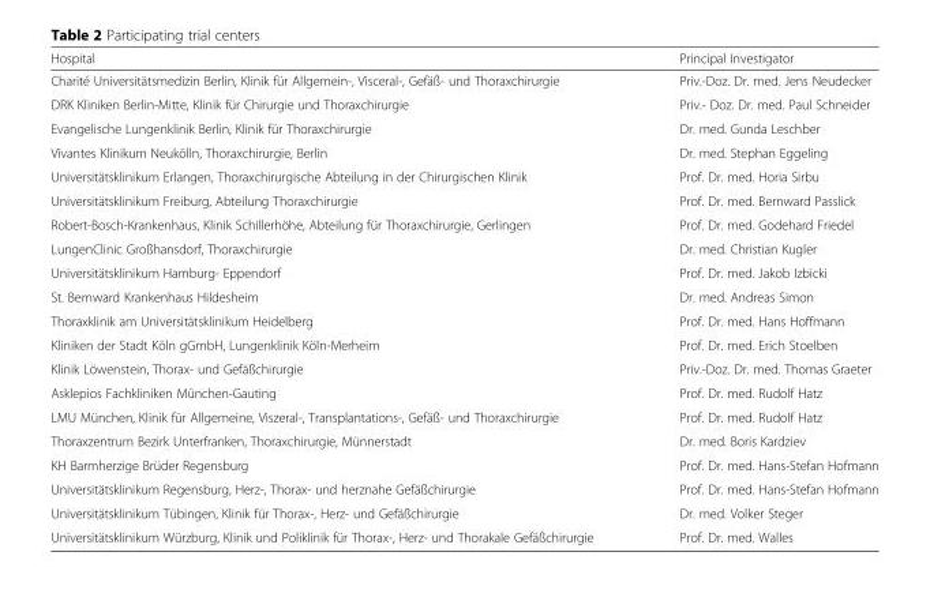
<table><thead><tr><td>Hospital</td><td>Principal Investigator</td></tr></thead><tbody><tr><td>Charité Universitätsmedizin Berlin, Klinik für Allgemein-, Visceral-, Gefäß- und Thoraxchirurgie</td><td>Priv.-Doz. Dr. med. Jens Neudecker</td></tr><tr><td>DRK Kliniken Berlin-Mitte, Klinik für Chirurgie und Thoraxchirurgie</td><td>Priv.- Doz. Dr. med. Paul Schneider</td></tr><tr><td>Evangelische Lungenklinik Berlin, Klinik für Thoraxchirurgie</td><td>Dr. med. Gunda Leschber</td></tr><tr><td>Vivantes Klinikum Neukölln, Thoraxchirurgie, Berlin</td><td>Dr. med. Stephan Eggeling</td></tr><tr><td>Universitätsklinikum Erlangen, Thoraxchirurgische Abteilung in der Chirurgischen Klinik</td><td>Prof. Dr. med. Horia Sirbu</td></tr><tr><td>Universitätsklinikum Freiburg, Abteilung Thoraxchirurgie</td><td>Prof. Dr. med. Bernward Passlick</td></tr><tr><td>Robert-Bosch-Krankenhaus, Klinik Schillerhöhe, Abteilung für Thoraxchirurgie, Gerlingen</td><td>Prof. Dr. med. Godehard Friedel</td></tr><tr><td>LungenClinic Großhansdorf, Thoraxchirurgie</td><td>Dr. med. Christian Kugler</td></tr><tr><td>Universitätsklinikum Hamburg- Eppendorf</td><td>Prof. Dr. med. Jakob Izbicki</td></tr><tr><td>St. Bernward Krankenhaus Hildesheim</td><td>Dr. med. Andreas Simon</td></tr><tr><td>Thoraxklinik am Universitätsklinikum Heidelberg</td><td>Prof. Dr. med. Hans Hoffmann</td></tr><tr><td>Kliniken der Stadt Köln gGmbH, Lungenklinik Köln-Merheim</td><td>Prof. Dr. med. Erich Stoelben</td></tr><tr><td>Klinik Löwenstein, Thorax- und Gefäßchirurgie</td><td>Priv.-Doz. Dr. med. Thomas Graeter</td></tr><tr><td>Asklepios Fachkliniken München-Gauting</td><td>Prof. Dr. med. Rudolf Hatz</td></tr><tr><td>LMU München, Klinik für Allgemeine, Viszeral-, Transplantations-, Gefäß- und Thoraxchirurgie</td><td>Prof. Dr. med. Rudolf Hatz</td></tr><tr><td>Thoraxzentrum Bezirk Unterfranken, Thoraxchirurgie, Münnerstadt</td><td>Dr. med. Boris Kardziev</td></tr><tr><td>KH Barmherzige Brüder Regensburg</td><td>Prof. Dr. med. Hans-Stefan Hofmann</td></tr><tr><td>Universitätsklinikum Regensburg, Herz-, Thorax- und herznahe Gefäßchirurgie</td><td>Prof. Dr. med. Hans-Stefan Hofmann</td></tr><tr><td>Universitätsklinikum Tübingen, Klinik für Thorax-, Herz- und Gefäßchirurgie</td><td>Dr. med. Volker Steger</td></tr><tr><td>Universitätsklinikum Würzburg, Klinik und Poliklinik für Thorax-, Herz- und Thorakale Gefäßchirurgie</td><td>Prof. Dr. med. Walles</td></tr></tbody></table>